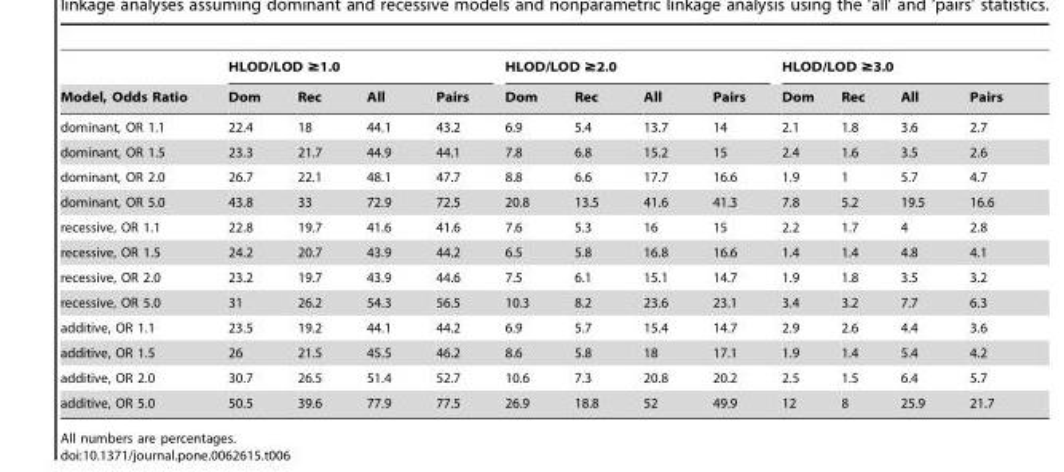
<table><thead><tr><td rowspan="2">Model, Odds Ratio</td><td colspan="4">HLOD/LOD ≥1.0</td><td colspan="4">HLOD/LOD ≥2.0</td><td colspan="4">HLOD/LOD ≥3.0</td></tr><tr><td>Dom</td><td>Rec</td><td>All</td><td>Pairs</td><td>Dom</td><td>Rec</td><td>All</td><td>Pairs</td><td>Dom</td><td>Rec</td><td>All</td><td>Pairs</td></tr></thead><tbody><tr><td>dominant, OR 1.1</td><td>22.4</td><td>18</td><td>44.1</td><td>43.2</td><td>6.9</td><td>5.4</td><td>13.7</td><td>14</td><td>2.1</td><td>1.8</td><td>3.6</td><td>2.7</td></tr><tr><td>dominant, OR 1.5</td><td>23.3</td><td>21.7</td><td>44.9</td><td>44.1</td><td>7.8</td><td>6.8</td><td>15.2</td><td>15</td><td>2.4</td><td>1.6</td><td>3.5</td><td>2.6</td></tr><tr><td>dominant, OR 2.0</td><td>26.7</td><td>22.1</td><td>48.1</td><td>47.7</td><td>8.8</td><td>6.6</td><td>17.7</td><td>16.6</td><td>1.9</td><td>1</td><td>5.7</td><td>4.7</td></tr><tr><td>dominant, OR 5.0</td><td>43.8</td><td>33</td><td>72.9</td><td>72.5</td><td>20.8</td><td>13.5</td><td>41.6</td><td>41.3</td><td>7.8</td><td>5.2</td><td>19.5</td><td>16.6</td></tr><tr><td>recessive, OR 1.1</td><td>22.8</td><td>19.7</td><td>41.6</td><td>41.6</td><td>7.6</td><td>5.3</td><td>16</td><td>15</td><td>2.2</td><td>1.7</td><td>4</td><td>2.8</td></tr><tr><td>recessive, OR 1.5</td><td>24.2</td><td>20.7</td><td>43.9</td><td>44.2</td><td>6.5</td><td>5.8</td><td>16.8</td><td>16.6</td><td>1.4</td><td>1.4</td><td>4.8</td><td>4.1</td></tr><tr><td>recessive, OR 2.0</td><td>23.2</td><td>19.7</td><td>43.9</td><td>44.6</td><td>7.5</td><td>6.1</td><td>15.1</td><td>14.7</td><td>1.9</td><td>1.8</td><td>3.5</td><td>3.2</td></tr><tr><td>recessive, OR 5.0</td><td>31</td><td>26.2</td><td>54.3</td><td>56.5</td><td>10.3</td><td>8.2</td><td>23.6</td><td>23.1</td><td>3.4</td><td>3.2</td><td>7.7</td><td>6.3</td></tr><tr><td>additive, OR 1.1</td><td>23.5</td><td>19.2</td><td>44.1</td><td>44.2</td><td>6.9</td><td>5.7</td><td>15.4</td><td>14.7</td><td>2.9</td><td>2.6</td><td>4.4</td><td>3.6</td></tr><tr><td>additive, OR 1.5</td><td>26</td><td>21.5</td><td>45.5</td><td>46.2</td><td>8.6</td><td>5.8</td><td>18</td><td>17.1</td><td>1.9</td><td>1.4</td><td>5.4</td><td>4.2</td></tr><tr><td>additive, OR 2.0</td><td>30.7</td><td>26.5</td><td>51.4</td><td>52.7</td><td>10.6</td><td>7.3</td><td>20.8</td><td>20.2</td><td>2.5</td><td>1.5</td><td>6.4</td><td>5.7</td></tr><tr><td>additive, OR 5.0</td><td>50.5</td><td>39.6</td><td>77.9</td><td>77.5</td><td>26.9</td><td>18.8</td><td>52</td><td>49.9</td><td>12</td><td>8</td><td>25.9</td><td>21.7</td></tr></tbody></table>